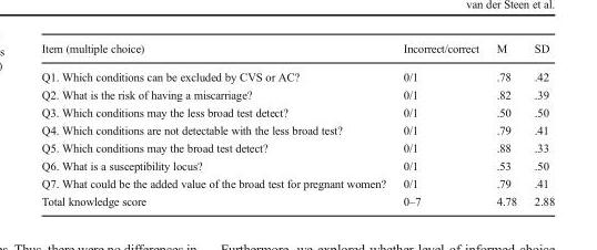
<table><thead><tr><td>Item (multiple choice)</td><td>Incorrect/correct</td><td>M</td><td>SD</td></tr></thead><tbody><tr><td>Q1. Which conditions can be excluded by CVS or AC?</td><td>0/1</td><td>.78</td><td>.42</td></tr><tr><td>Q2. What is the risk of having a miscarriage?</td><td>0/1</td><td>.82</td><td>.39</td></tr><tr><td>Q3. Which conditions may the less broad test detect?</td><td>0/1</td><td>.50</td><td>.50</td></tr><tr><td>Q4. Which conditions are not detectable with the less broad test?</td><td>0/1</td><td>.79</td><td>.41</td></tr><tr><td>Q5. Which conditions may the broad test detect?</td><td>0/1</td><td>.88</td><td>.33</td></tr><tr><td>Q6. What is a susceptibility locus?</td><td>0/1</td><td>.53</td><td>.50</td></tr><tr><td>Q7. What could be the added value of the broad test for pregnant women?</td><td>0/1</td><td>.79</td><td>.41</td></tr><tr><td>Total knowledge score</td><td>0–7</td><td>4.78</td><td>2.88</td></tr></tbody></table>